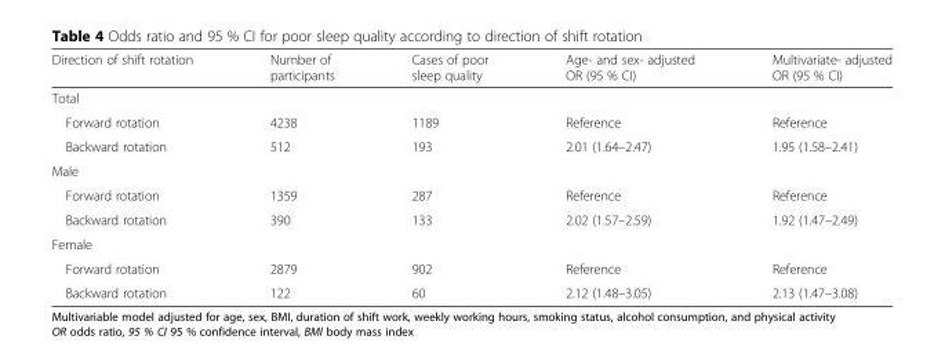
<table><thead><tr><td>Direction of shift rotation</td><td>Number of participants</td><td>Cases of poor sleep quality</td><td>Age- and sex- adjusted OR (95 % CI)</td><td>Multivariate- adjusted OR (95 % CI)</td></tr></thead><tbody><tr><td colspan="5">Total</td></tr><tr><td>Forward rotation</td><td>4238</td><td>1189</td><td>Reference</td><td>Reference</td></tr><tr><td>Backward rotation</td><td>512</td><td>193</td><td>2.01 (1.64–2.47)</td><td>1.95 (1.58–2.41)</td></tr><tr><td colspan="5">Male</td></tr><tr><td>Forward rotation</td><td>1359</td><td>287</td><td>Reference</td><td>Reference</td></tr><tr><td>Backward rotation</td><td>390</td><td>133</td><td>2.02 (1.57–2.59)</td><td>1.92 (1.47–2.49)</td></tr><tr><td colspan="5">Female</td></tr><tr><td>Forward rotation</td><td>2879</td><td>902</td><td>Reference</td><td>Reference</td></tr><tr><td>Backward rotation</td><td>122</td><td>60</td><td>2.12 (1.48–3.05)</td><td>2.13 (1.47–3.08)</td></tr></tbody></table>